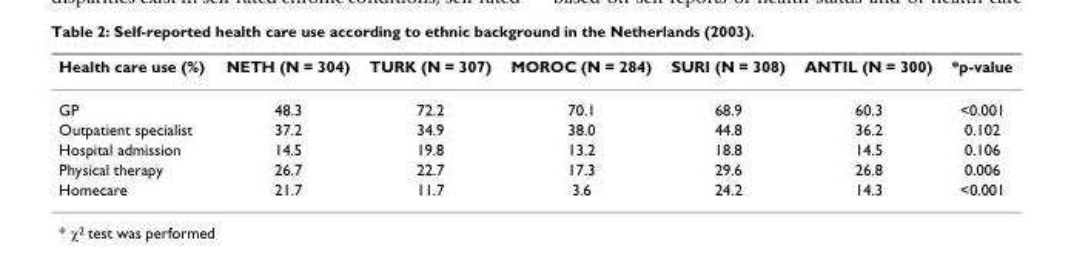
<table><thead><tr><td>Health care use (%)</td><td>NETH (N = 304)</td><td>TURK (N = 307)</td><td>MOROC (N = 284)</td><td>SURI (N = 308)</td><td>ANTIL (N = 300)</td><td>*p-value</td></tr></thead><tbody><tr><td>GP</td><td>48.3</td><td>72.2</td><td>70.1</td><td>68.9</td><td>60.3</td><td>&lt;0.001</td></tr><tr><td>Outpatient specialist</td><td>37.2</td><td>34.9</td><td>38.0</td><td>44.8</td><td>36.2</td><td>0.102</td></tr><tr><td>Hospital admission</td><td>14.5</td><td>19.8</td><td>13.2</td><td>18.8</td><td>14.5</td><td>0.106</td></tr><tr><td>Physical therapy</td><td>26.7</td><td>22.7</td><td>17.3</td><td>29.6</td><td>26.8</td><td>0.006</td></tr><tr><td>Homecare</td><td>21.7</td><td>11.7</td><td>3.6</td><td>24.2</td><td>14.3</td><td>&lt;0.001</td></tr></tbody></table>